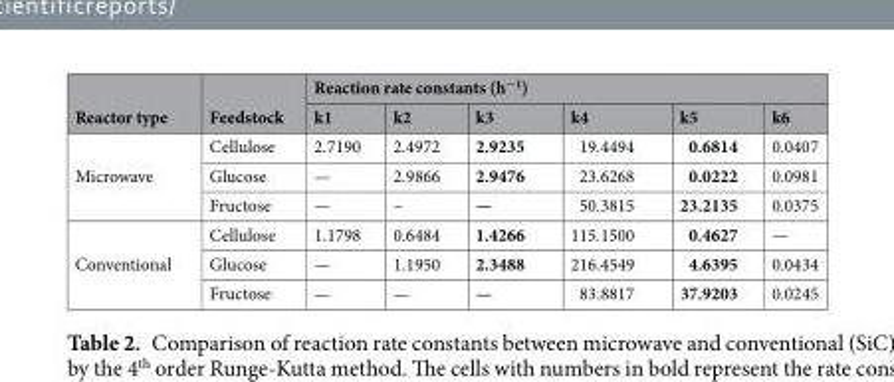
<table><thead><tr><td rowspan="2">Reactor type</td><td rowspan="2">Feedstock</td><td colspan="6">Reaction rate constants (h<sup>−1</sup>)</td></tr><tr><td>k1</td><td>k2</td><td>k3</td><td>k4</td><td>k5</td><td>k6</td></tr></thead><tbody><tr><td rowspan="3">Microwave</td><td>Cellulose</td><td>2.7190</td><td>2.4972</td><td>2.9235</td><td>19.4494</td><td>0.6814</td><td>0.0407</td></tr><tr><td>Glucose</td><td>—</td><td>2.9866</td><td>2.9476</td><td>23.6268</td><td>0.0222</td><td>0.0981</td></tr><tr><td>Fructose</td><td>—</td><td>–</td><td>—</td><td>50.3815</td><td>23.2135</td><td>0.0375</td></tr><tr><td rowspan="3">Conventional</td><td>Cellulose</td><td>1.1798</td><td>0.6484</td><td>1.4266</td><td>115.1500</td><td>0.4627</td><td>—</td></tr><tr><td>Glucose</td><td>—</td><td>1.1950</td><td>2.3488</td><td>216.4549</td><td>4.6395</td><td>0.0434</td></tr><tr><td>Fructose</td><td>—</td><td>—</td><td>—</td><td>83.8817</td><td>37.9203</td><td>0.0245</td></tr></tbody></table>